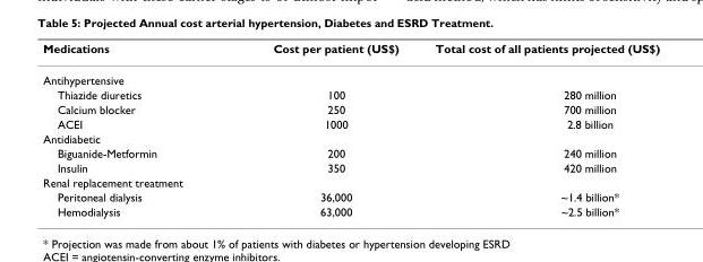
<table><thead><tr><td>Medications</td><td>Cost per patient (US$)</td><td>Total cost of all patients projected (US$)</td></tr></thead><tbody><tr><td colspan="3">Antihypertensive</td></tr><tr><td>Thiazide diuretics</td><td>100</td><td>280 million</td></tr><tr><td>Calcium blocker</td><td>250</td><td>700 million</td></tr><tr><td>ACEI</td><td>1000</td><td>2.8 billion</td></tr><tr><td colspan="3">Antidiabetic</td></tr><tr><td>Biguanide-Metformin</td><td>200</td><td>240 million</td></tr><tr><td>Insulin</td><td>350</td><td>420 million</td></tr><tr><td colspan="3">Renal replacement treatment</td></tr><tr><td>Peritoneal dialysis</td><td>36,000</td><td>~1.4 billion*</td></tr><tr><td>Hemodialysis</td><td>63,000</td><td>~2.5 billion*</td></tr></tbody></table>